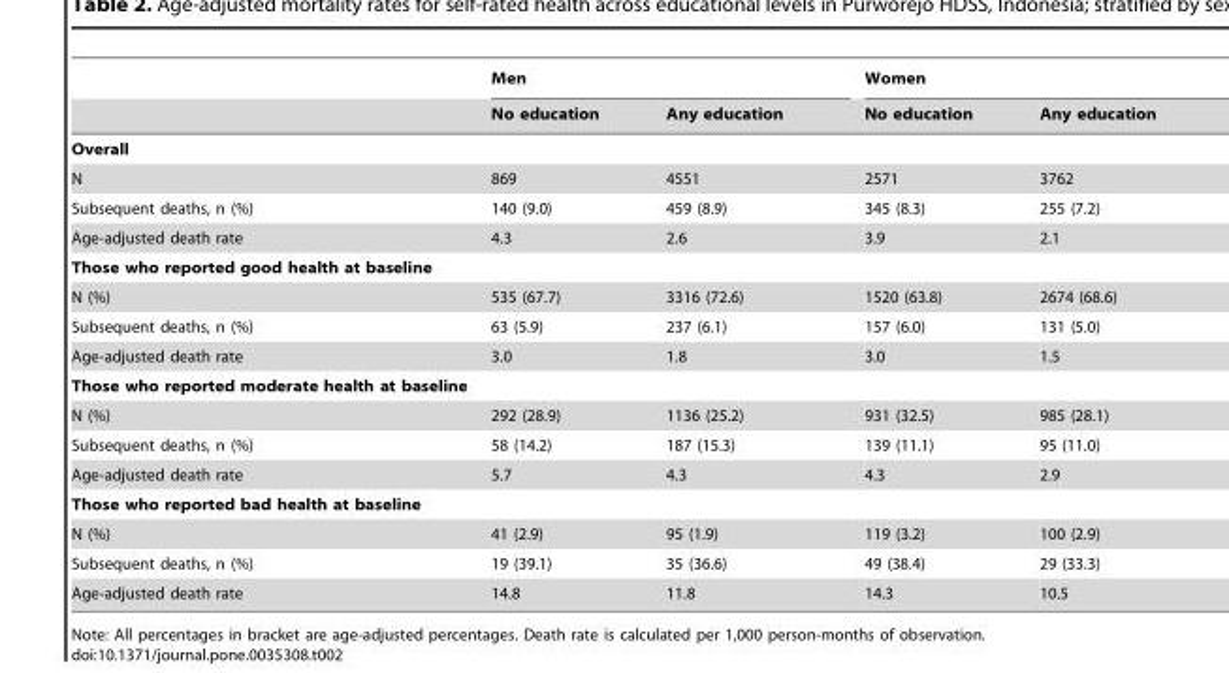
<table><thead><tr><td rowspan="2"></td><td colspan="2">Men</td><td colspan="2">Women</td></tr><tr><td>No education</td><td>Any education</td><td>No education</td><td>Any education</td></tr></thead><tbody><tr><td colspan="5">Overall</td></tr><tr><td>N</td><td>869</td><td>4551</td><td>2571</td><td>3762</td></tr><tr><td>Subsequent deaths, n (%)</td><td>140 (9.0)</td><td>459 (8.9)</td><td>345 (8.3)</td><td>255 (7.2)</td></tr><tr><td>Age-adjusted death rate</td><td>4.3</td><td>2.6</td><td>3.9</td><td>2.1</td></tr><tr><td colspan="5">Those who reported good health at baseline</td></tr><tr><td>N (%)</td><td>535 (67.7)</td><td>3316 (72.6)</td><td>1520 (63.8)</td><td>2674 (68.6)</td></tr><tr><td>Subsequent deaths, n (%)</td><td>63 (5.9)</td><td>237 (6.1)</td><td>157 (6.0)</td><td>131 (5.0)</td></tr><tr><td>Age-adjusted death rate</td><td>3.0</td><td>1.8</td><td>3.0</td><td>1.5</td></tr><tr><td colspan="5">Those who reported moderate health at baseline</td></tr><tr><td>N (%)</td><td>292 (28.9)</td><td>1136 (25.2)</td><td>931 (32.5)</td><td>985 (28.1)</td></tr><tr><td>Subsequent deaths, n (%)</td><td>58 (14.2)</td><td>187 (15.3)</td><td>139 (11.1)</td><td>95 (11.0)</td></tr><tr><td>Age-adjusted death rate</td><td>5.7</td><td>4.3</td><td>4.3</td><td>2.9</td></tr><tr><td colspan="5">Those who reported bad health at baseline</td></tr><tr><td>N (%)</td><td>41 (2.9)</td><td>95 (1.9)</td><td>119 (3.2)</td><td>100 (2.9)</td></tr><tr><td>Subsequent deaths, n (%)</td><td>19 (39.1)</td><td>35 (36.6)</td><td>49 (38.4)</td><td>29 (33.3)</td></tr><tr><td>Age-adjusted death rate</td><td>14.8</td><td>11.8</td><td>14.3</td><td>10.5</td></tr></tbody></table>